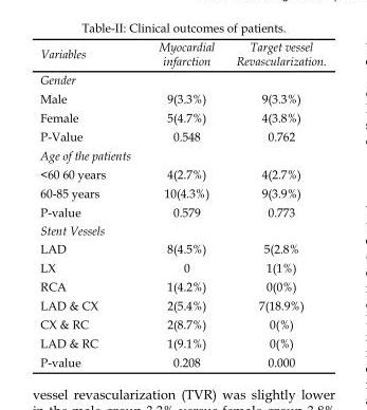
<table><thead><tr><td>Variables</td><td>Myocardial infarction</td><td>Target vessel Revascularization.</td></tr></thead><tbody><tr><td colspan="3">Gender</td></tr><tr><td>Male</td><td>9(3.3%)</td><td>9(3.3%)</td></tr><tr><td>Female</td><td>5(4.7%)</td><td>4(3.8%)</td></tr><tr><td>P-Value</td><td>0.548</td><td>0.762</td></tr><tr><td colspan="3">Age of the patients</td></tr><tr><td>&lt;60 60 years</td><td>4(2.7%)</td><td>4(2.7%)</td></tr><tr><td>60-85 years</td><td>10(4.3%)</td><td>9(3.9%)</td></tr><tr><td>P-value</td><td>0.579</td><td>0.773</td></tr><tr><td colspan="3">Stent Vessels</td></tr><tr><td>LAD</td><td>8(4.5%)</td><td>5(2.8%</td></tr><tr><td>LX</td><td>0</td><td>1(1%)</td></tr><tr><td>RCA</td><td>1(4.2%)</td><td>0(0%)</td></tr><tr><td>LAD &amp; CX</td><td>2(5.4%)</td><td>7(18.9%)</td></tr><tr><td>CX &amp; RC</td><td>2(8.7%)</td><td>0(%)</td></tr><tr><td>LAD &amp; RC</td><td>1(9.1%)</td><td>0(%)</td></tr><tr><td>P-value</td><td>0.208</td><td>0.000</td></tr></tbody></table>